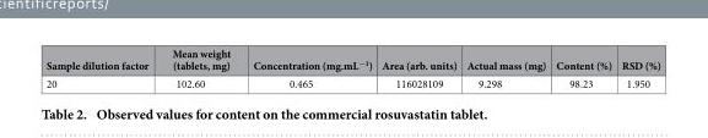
<table><thead><tr><td>Sample dilution factor</td><td>Mean weight (tablets, mg)</td><td>Concentration (mg.mL<sup>−1</sup>)</td><td>Area (arb. units)</td><td>Actual mass (mg)</td><td>Content (%)</td><td>RSD (%)</td></tr></thead><tbody><tr><td>20</td><td>102.60</td><td>0.465</td><td>116028109</td><td>9.298</td><td>98.23</td><td>1.950</td></tr></tbody></table>